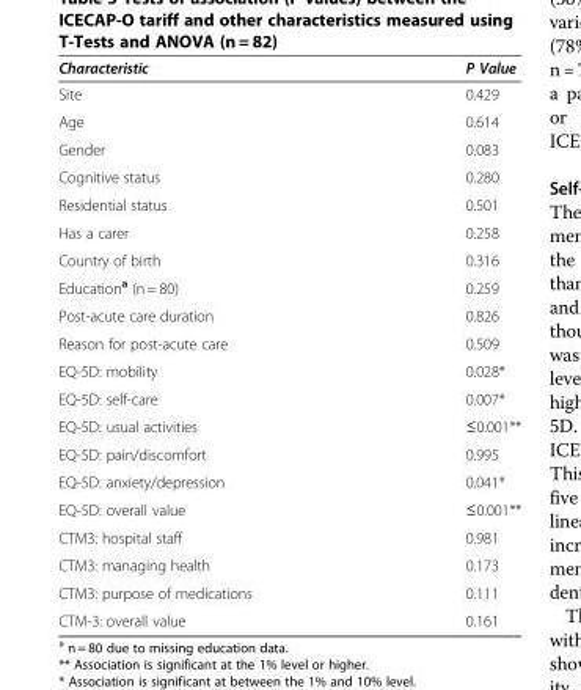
<table><thead><tr><td>Characteristic</td><td>P Value</td></tr></thead><tbody><tr><td>Site</td><td>0.429</td></tr><tr><td>Age</td><td>0.614</td></tr><tr><td>Gender</td><td>0.083</td></tr><tr><td>Cognitive status</td><td>0.280</td></tr><tr><td>Residential status</td><td>0.501</td></tr><tr><td>Has a carer</td><td>0.258</td></tr><tr><td>Country of birth</td><td>0.316</td></tr><tr><td>Education<sup>a</sup> (n = 80)</td><td>0.259</td></tr><tr><td>Post-acute care duration</td><td>0.826</td></tr><tr><td>Reason for post-acute care</td><td>0.509</td></tr><tr><td>EQ-5D: mobility</td><td>0.028*</td></tr><tr><td>EQ-5D: self-care</td><td>0.007*</td></tr><tr><td>EQ-5D: usual activities</td><td>≤0.001**</td></tr><tr><td>EQ-5D: pain/discomfort</td><td>0.995</td></tr><tr><td>EQ-5D: anxiety/depression</td><td>0.041*</td></tr><tr><td>EQ-5D: overall value</td><td>≤0.001**</td></tr><tr><td>CTM3: hospital staff</td><td>0.981</td></tr><tr><td>CTM3: managing health</td><td>0.173</td></tr><tr><td>CTM3: purpose of medications</td><td>0.111</td></tr><tr><td>CTM-3: overall value</td><td>0.161</td></tr></tbody></table>